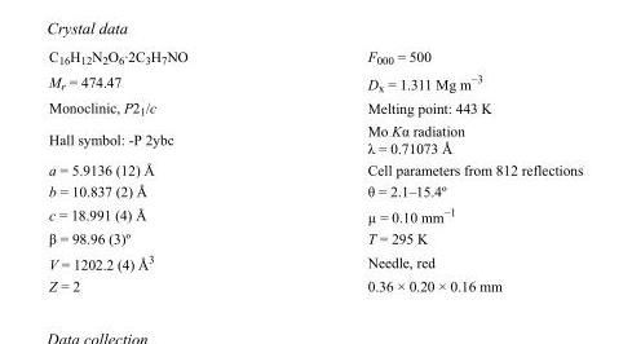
<table><tbody><tr><td>C<sub>16</sub>H<sub>12</sub>N<sub>2</sub>O<sub>6</sub>·2C<sub>3</sub>H<sub>7</sub>NO</td><td>F000 = 500</td></tr><tr><td>M<sub>r</sub> = 474.47</td><td>D<sub>x</sub> = 1.311 Mg m<sup>−3</sup></td></tr><tr><td>Monoclinic, P2<sub>1</sub>/c</td><td>Melting point: 443 K</td></tr><tr><td>Hall symbol: -P 2ybc</td><td>Mo Kα radiation λ = 0.71073 Å</td></tr><tr><td>a = 5.9136 (12) Å</td><td>Cell parameters from 812 reflections</td></tr><tr><td>b = 10.837 (2) Å</td><td>θ = 2.1–15.4º</td></tr><tr><td>c = 18.991 (4) Å</td><td>µ = 0.10 mm<sup>−1</sup></td></tr><tr><td>β = 98.96 (3)º</td><td>T = 295 K</td></tr><tr><td>V = 1202.2 (4) Å<sup>3</sup></td><td>Needle, red</td></tr><tr><td>Z = 2</td><td>0.36 × 0.20 × 0.16 mm</td></tr></tbody></table>